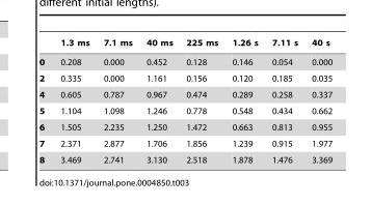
<table><thead><tr><td></td><td>1.3 ms</td><td>7.1 ms</td><td>40 ms</td><td>225 ms</td><td>1.26 s</td><td>7.11 s</td><td>40 s</td></tr></thead><tbody><tr><td>0</td><td>0.208</td><td>0.000</td><td>0.452</td><td>0.128</td><td>0.146</td><td>0.054</td><td>0.000</td></tr><tr><td>2</td><td>0.335</td><td>0.000</td><td>1.161</td><td>0.156</td><td>0.120</td><td>0.185</td><td>0.035</td></tr><tr><td>4</td><td>0.605</td><td>0.787</td><td>0.967</td><td>0.474</td><td>0.289</td><td>0.258</td><td>0.337</td></tr><tr><td>5</td><td>1.104</td><td>1.098</td><td>1.246</td><td>0.778</td><td>0.548</td><td>0.434</td><td>0.662</td></tr><tr><td>6</td><td>1.505</td><td>2.235</td><td>1.250</td><td>1.472</td><td>0.663</td><td>0.813</td><td>0.955</td></tr><tr><td>7</td><td>2.371</td><td>2.877</td><td>1.706</td><td>1.856</td><td>1.239</td><td>0.915</td><td>1.977</td></tr><tr><td>8</td><td>3.469</td><td>2.741</td><td>3.130</td><td>2.518</td><td>1.878</td><td>1.476</td><td>3.369</td></tr></tbody></table>